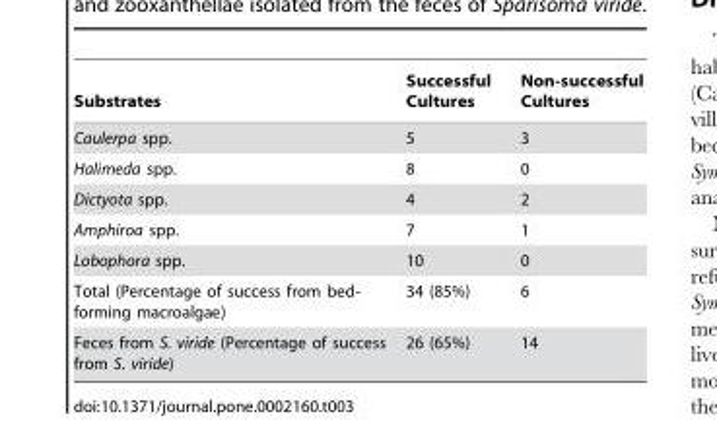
<table><thead><tr><td>Substrates</td><td>Successful Cultures</td><td>Non-successful Cultures</td></tr></thead><tbody><tr><td>Caulerpa spp.</td><td>5</td><td>3</td></tr><tr><td>Halimeda spp.</td><td>8</td><td>0</td></tr><tr><td>Dictyota spp.</td><td>4</td><td>2</td></tr><tr><td>Amphiroa spp.</td><td>7</td><td>1</td></tr><tr><td>Lobophora spp.</td><td>10</td><td>0</td></tr><tr><td>Total (Percentage of success from bed- forming macroalgae)</td><td>34 (85%)</td><td>6</td></tr><tr><td>Feces from S. viride (Percentage of success from S. viride)</td><td>26 (65%)</td><td>14</td></tr></tbody></table>